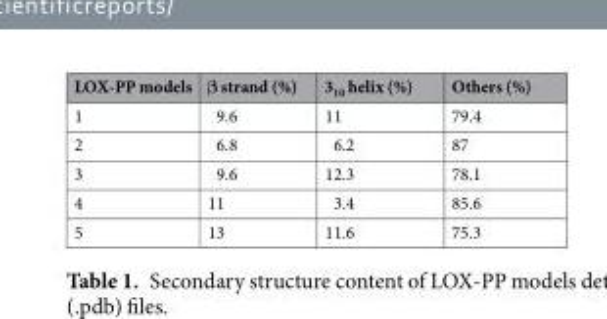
<table><thead><tr><td>LOX-PP models</td><td>β strand (%)</td><td>3<sub>10</sub> helix (%)</td><td>Others (%)</td></tr></thead><tbody><tr><td>1</td><td>9.6</td><td>11</td><td>79.4</td></tr><tr><td>2</td><td>6.8</td><td>6.2</td><td>87</td></tr><tr><td>3</td><td>9.6</td><td>12.3</td><td>78.1</td></tr><tr><td>4</td><td>11</td><td>3.4</td><td>85.6</td></tr><tr><td>5</td><td>13</td><td>11.6</td><td>75.3</td></tr></tbody></table>